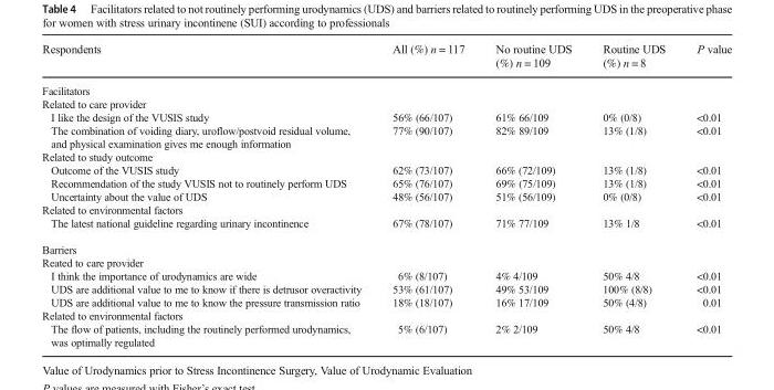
<table><thead><tr><td>Respondents</td><td>All (%) n = 117</td><td>No routine UDS (%) n = 109</td><td>Routine UDS (%) n = 8</td><td>P value</td></tr></thead><tbody><tr><td colspan="5">Facilitators</td></tr><tr><td colspan="5">Related to care provider</td></tr><tr><td>I like the design of the VUSIS study</td><td>56% (66/107)</td><td>61% 66/109</td><td>0% (0/8)</td><td>&lt;0.01</td></tr><tr><td>The combination of voiding diary, uroflow/postvoid residual volume, and physical examination gives me enough information</td><td>77% (90/107)</td><td>82% 89/109</td><td>13% (1/8)</td><td>&lt;0.01</td></tr><tr><td colspan="5">Related to study outcome</td></tr><tr><td>Outcome of the VUSIS study</td><td>62% (73/107)</td><td>66% (72/109)</td><td>13% (1/8)</td><td>&lt;0.01</td></tr><tr><td>Recommendation of the study VUSIS not to routinely perform UDS</td><td>65% (76/107)</td><td>69% (75/109)</td><td>13% (1/8)</td><td>&lt;0.01</td></tr><tr><td>Uncertainty about the value of UDS</td><td>48% (56/107)</td><td>51% (56/109)</td><td>0% (0/8)</td><td>&lt;0.01</td></tr><tr><td colspan="5">Related to environmental factors</td></tr><tr><td>The latest national guideline regarding urinary incontinence</td><td>67% (78/107)</td><td>71% 77/109</td><td>13% 1/8</td><td>&lt;0.01</td></tr><tr><td colspan="5">Barriers</td></tr><tr><td colspan="5">Reated to care provider</td></tr><tr><td>I think the importance of urodynamics are wide</td><td>6% (8/107)</td><td>4% 4/109</td><td>50% 4/8</td><td>&lt;0.01</td></tr><tr><td>UDS are additional value to me to know if there is detrusor overactivity</td><td>53% (61/107)</td><td>49% 53/109</td><td>100% (8/8)</td><td>&lt;0.01</td></tr><tr><td>UDS are additional value to me to know the pressure transmission ratio</td><td>18% (18/107)</td><td>16% 17/109</td><td>50% (4/8)</td><td>0.01</td></tr><tr><td colspan="5">Related to environmental factors</td></tr><tr><td>The flow of patients, including the routinely performed urodynamics, was optimally regulated</td><td>5% (6/107)</td><td>2% 2/109</td><td>50% 4/8</td><td>&lt;0.01</td></tr></tbody></table>